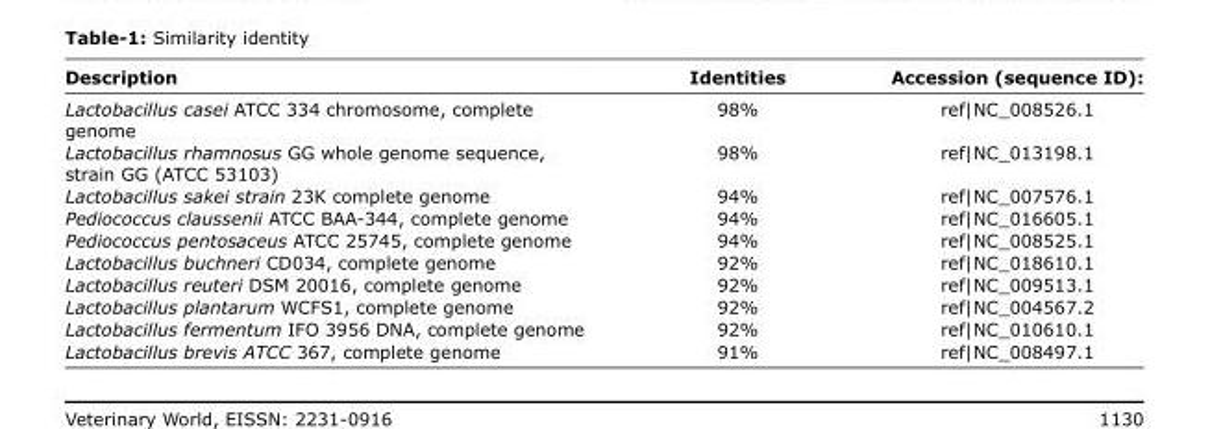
<table><thead><tr><td>Description</td><td>Identities</td><td>Accession (sequence ID):</td></tr></thead><tbody><tr><td>Lactobacillus casei ATCC 334 chromosome, complete genome</td><td>98%</td><td>ref|NC_008526.1</td></tr><tr><td>Lactobacillus rhamnosus GG whole genome sequence, strain GG (ATCC 53103)</td><td>98%</td><td>ref|NC_013198.1</td></tr><tr><td>Lactobacillus sakei strain 23K complete genome</td><td>94%</td><td>ref|NC_007576.1</td></tr><tr><td>Pediococcus claussenii ATCC BAA-344, complete genome</td><td>94%</td><td>ref|NC_016605.1</td></tr><tr><td>Pediococcus pentosaceus ATCC 25745, complete genome</td><td>94%</td><td>ref|NC_008525.1</td></tr><tr><td>Lactobacillus buchneri CD034, complete genome</td><td>92%</td><td>ref|NC_018610.1</td></tr><tr><td>Lactobacillus reuteri DSM 20016, complete genome</td><td>92%</td><td>ref|NC_009513.1</td></tr><tr><td>Lactobacillus plantarum WCFS1, complete genome</td><td>92%</td><td>ref|NC_004567.2</td></tr><tr><td>Lactobacillus fermentum IFO 3956 DNA, complete genome</td><td>92%</td><td>ref|NC_010610.1</td></tr><tr><td>Lactobacillus brevis ATCC 367, complete genome</td><td>91%</td><td>ref|NC_008497.1</td></tr></tbody></table>